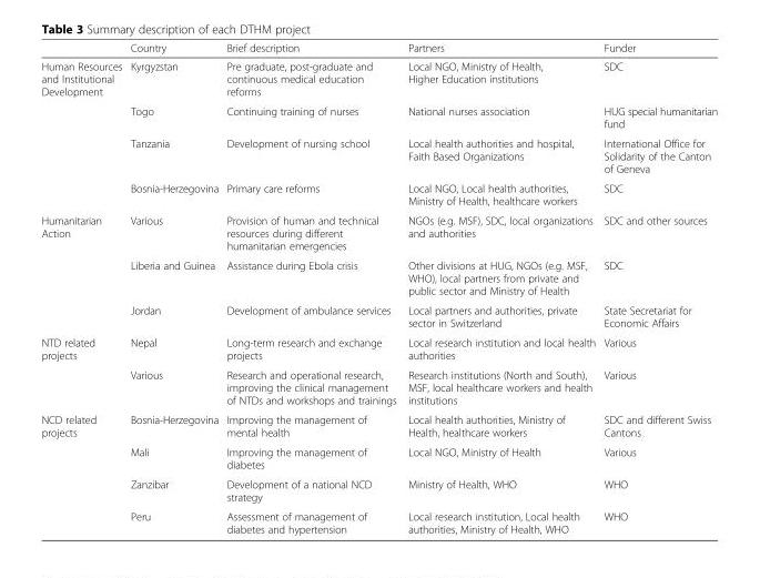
<table><thead><tr><td></td><td>Country</td><td>Brief description</td><td>Partners</td><td>Funder</td></tr></thead><tbody><tr><td rowspan="4">Human Resources and Institutional Development</td><td>Kyrgyzstan</td><td>Pre graduate, post-graduate and continuous medical education reforms</td><td>Local NGO, Ministry of Health, Higher Education institutions</td><td>SDC</td></tr><tr><td>Togo</td><td>Continuing training of nurses</td><td>National nurses association</td><td>HUG special humanitarian fund</td></tr><tr><td>Tanzania</td><td>Development of nursing school</td><td>Local health authorities and hospital, Faith Based Organizations</td><td>International Office for Solidarity of the Canton of Geneva</td></tr><tr><td>Bosnia-Herzegovina</td><td>Primary care reforms</td><td>Local NGO, Local health authorities, Ministry of Health, healthcare workers</td><td>SDC</td></tr><tr><td rowspan="3">Humanitarian Action</td><td>Various</td><td>Provision of human and technical resources during different humanitarian emergencies</td><td>NGOs (e.g. MSF), SDC, local organizations and authorities</td><td>SDC and other sources</td></tr><tr><td>Liberia and Guinea</td><td>Assistance during Ebola crisis</td><td>Other divisions at HUG, NGOs (e.g. MSF, WHO), local partners from private and public sector and Ministry of Health</td><td>SDC</td></tr><tr><td>Jordan</td><td>Development of ambulance services</td><td>Local partners and authorities, private sector in Switzerland</td><td>State Secretariat for Economic Affairs</td></tr><tr><td rowspan="2">NTD related projects</td><td>Nepal</td><td>Long-term research and exchange projects</td><td>Local research institution and local health authorities</td><td>Various</td></tr><tr><td>Various</td><td>Research and operational research, improving the clinical management of NTDs and workshops and trainings</td><td>Research institutions (North and South), MSF, local healthcare workers and health institutions</td><td>Various</td></tr><tr><td rowspan="4">NCD related projects</td><td>Bosnia-Herzegovina</td><td>Improving the management of mental health</td><td>Local health authorities, Ministry of Health, healthcare workers</td><td>SDC and different Swiss Cantons</td></tr><tr><td>Mali</td><td>Improving the management of diabetes</td><td>Local NGO, Ministry of Health</td><td>Various</td></tr><tr><td>Zanzibar</td><td>Development of a national NCD strategy</td><td>Ministry of Health, WHO</td><td>WHO</td></tr><tr><td>Peru</td><td>Assessment of management of diabetes and hypertension</td><td>Local research institution, Local health authorities, Ministry of Health, WHO</td><td>WHO</td></tr></tbody></table>